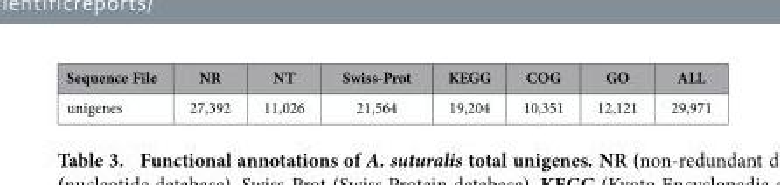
<table><thead><tr><td>Sequence File</td><td>NR</td><td>NT</td><td>Swiss-Prot</td><td>KEGG</td><td>COG</td><td>GO</td><td>ALL</td></tr></thead><tbody><tr><td>unigenes</td><td>27,392</td><td>11,026</td><td>21,564</td><td>19,204</td><td>10,351</td><td>12,121</td><td>29,971</td></tr></tbody></table>